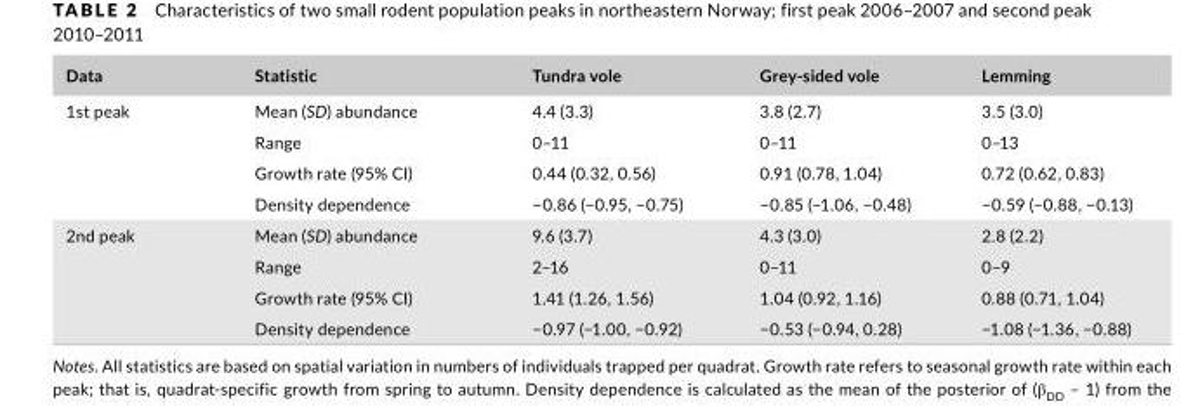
<table><thead><tr><td>Data</td><td>Statistic</td><td>Tundra vole</td><td>Grey- sided vole</td><td>Lemming</td></tr></thead><tbody><tr><td rowspan="4">1st peak</td><td>Mean (SD) abundance</td><td>4.4 (3.3)</td><td>3.8 (2.7)</td><td>3.5 (3.0)</td></tr><tr><td>Range</td><td>0–11</td><td>0–11</td><td>0–13</td></tr><tr><td>Growth rate (95% CI)</td><td>0.44 (0.32, 0.56)</td><td>0.91 (0.78, 1.04)</td><td>0.72 (0.62, 0.83)</td></tr><tr><td>Density dependence</td><td>−0.86 (−0.95, −0.75)</td><td>−0.85 (−1.06, −0.48)</td><td>−0.59 (−0.88, −0.13)</td></tr><tr><td rowspan="4">2nd peak</td><td>Mean (SD) abundance</td><td>9.6 (3.7)</td><td>4.3 (3.0)</td><td>2.8 (2.2)</td></tr><tr><td>Range</td><td>2–16</td><td>0–11</td><td>0–9</td></tr><tr><td>Growth rate (95% CI)</td><td>1.41 (1.26, 1.56)</td><td>1.04 (0.92, 1.16)</td><td>0.88 (0.71, 1.04)</td></tr><tr><td>Density dependence</td><td>−0.97 (−1.00, −0.92)</td><td>−0.53 (−0.94, 0.28)</td><td>−1.08 (−1.36, −0.88)</td></tr></tbody></table>